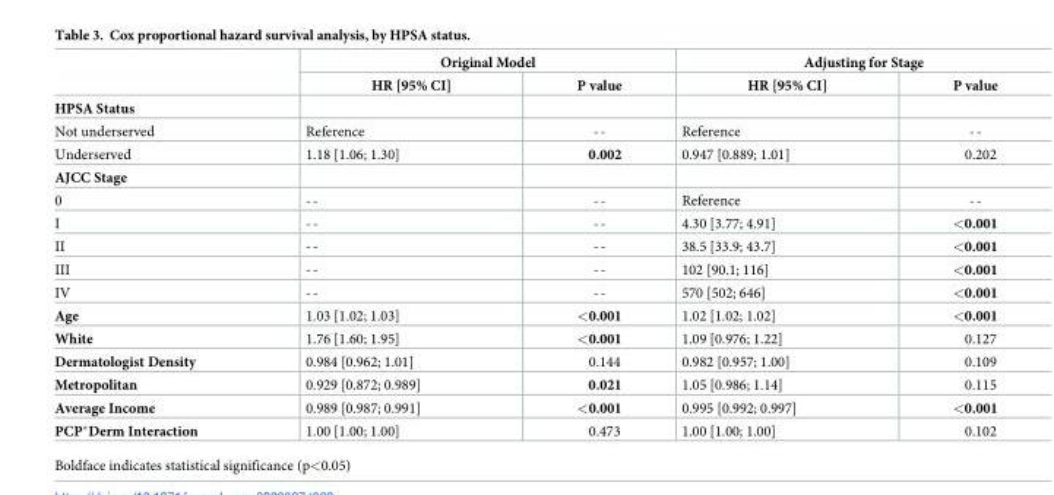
<table><thead><tr><td rowspan="2"></td><td colspan="2">Original Model</td><td colspan="2">Adjusting for Stage</td></tr><tr><td>HR [95% CI]</td><td>P value</td><td>HR [95% CI]</td><td>P value</td></tr></thead><tbody><tr><td colspan="5">HPSA Status</td></tr><tr><td>Not underserved</td><td>Reference</td><td>--</td><td>Reference</td><td>--</td></tr><tr><td>Underserved</td><td>1.18 [1.06; 1.30]</td><td>0.002</td><td>0.947 [0.889; 1.01]</td><td>0.202</td></tr><tr><td colspan="5">AJCC Stage</td></tr><tr><td>0</td><td>--</td><td>--</td><td>Reference</td><td>--</td></tr><tr><td>I</td><td>--</td><td>--</td><td>4.30 [3.77; 4.91]</td><td>&lt;0.001</td></tr><tr><td>II</td><td>--</td><td>--</td><td>38.5 [33.9; 43.7]</td><td>&lt;0.001</td></tr><tr><td>III</td><td>--</td><td>--</td><td>102 [90.1; 116]</td><td>&lt;0.001</td></tr><tr><td>IV</td><td>--</td><td>--</td><td>570 [502; 646]</td><td>&lt;0.001</td></tr><tr><td>Age</td><td>1.03 [1.02; 1.03]</td><td>&lt;0.001</td><td>1.02 [1.02; 1.02]</td><td>&lt;0.001</td></tr><tr><td>White</td><td>1.76 [1.60; 1.95]</td><td>&lt;0.001</td><td>1.09 [0.976; 1.22]</td><td>0.127</td></tr><tr><td>Dermatologist Density</td><td>0.984 [0.962; 1.01]</td><td>0.144</td><td>0.982 [0.957; 1.00]</td><td>0.109</td></tr><tr><td>Metropolitan</td><td>0.929 [0.872; 0.989]</td><td>0.021</td><td>1.05 [0.986; 1.14]</td><td>0.115</td></tr><tr><td>Average Income</td><td>0.989 [0.987; 0.991]</td><td>&lt;0.001</td><td>0.995 [0.992; 0.997]</td><td>&lt;0.001</td></tr><tr><td>PCP*Derm Interaction</td><td>1.00 [1.00; 1.00]</td><td>0.473</td><td>1.00 [1.00; 1.00]</td><td>0.102</td></tr></tbody></table>